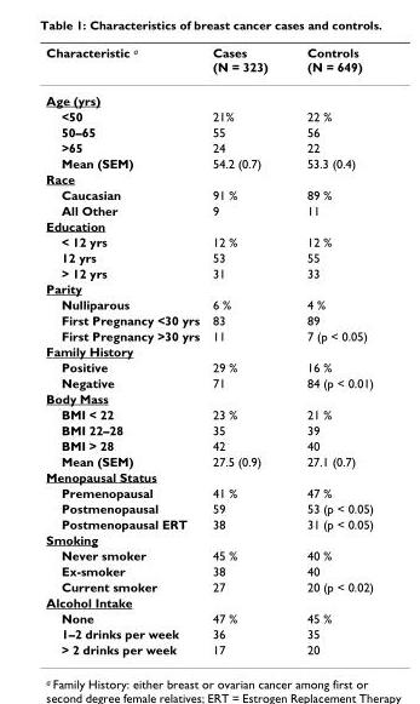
<table><thead><tr><td>Characteristic a</td><td>Cases (N = 323)</td><td>Controls (N = 649)</td></tr></thead><tbody><tr><td colspan="3">Age (yrs)</td></tr><tr><td>&lt;50</td><td>21%</td><td>22 %</td></tr><tr><td>50–65</td><td>55</td><td>56</td></tr><tr><td>&gt;65</td><td>24</td><td>22</td></tr><tr><td>Mean (SEM)</td><td>54.2 (0.7)</td><td>53.3 (0.4)</td></tr><tr><td colspan="3">Race</td></tr><tr><td>Caucasian</td><td>91 %</td><td>89 %</td></tr><tr><td>All Other</td><td>9</td><td>11</td></tr><tr><td colspan="3">Education</td></tr><tr><td>&lt; 12 yrs</td><td>12 %</td><td>12 %</td></tr><tr><td>12 yrs</td><td>53</td><td>55</td></tr><tr><td>&gt; 12 yrs</td><td>31</td><td>33</td></tr><tr><td colspan="3">Parity</td></tr><tr><td>Nulliparous</td><td>6 %</td><td>4 %</td></tr><tr><td>First Pregnancy &lt;30 yrs</td><td>83</td><td>89</td></tr><tr><td>First Pregnancy &gt;30 yrs</td><td>11</td><td>7 (p &lt; 0.05)</td></tr><tr><td colspan="3">Family History</td></tr><tr><td>Positive</td><td>29 %</td><td>16 %</td></tr><tr><td>Negative</td><td>71</td><td>84 (p &lt; 0.01)</td></tr><tr><td colspan="3">Body Mass</td></tr><tr><td>BMI &lt; 22</td><td>23 %</td><td>21 %</td></tr><tr><td>BMI 22–28</td><td>35</td><td>39</td></tr><tr><td>BMI &gt; 28</td><td>42</td><td>40</td></tr><tr><td>Mean (SEM)</td><td>27.5 (0.9)</td><td>27.1 (0.7)</td></tr><tr><td colspan="3">Menopausal Status</td></tr><tr><td>Premenopausal</td><td>41 %</td><td>47 %</td></tr><tr><td>Postmenopausal</td><td>59</td><td>53 (p &lt; 0.05)</td></tr><tr><td>Postmenopausal ERT</td><td>38</td><td>31 (p &lt; 0.05)</td></tr><tr><td colspan="3">Smoking</td></tr><tr><td>Never smoker</td><td>45 %</td><td>40 %</td></tr><tr><td>Ex-smoker</td><td>38</td><td>40</td></tr><tr><td>Current smoker</td><td>27</td><td>20 (p &lt; 0.02)</td></tr><tr><td colspan="3">Alcohol Intake</td></tr><tr><td>None</td><td>47 %</td><td>45 %</td></tr><tr><td>1–2 drinks per week</td><td>36</td><td>35</td></tr><tr><td>&gt; 2 drinks per week</td><td>17</td><td>20</td></tr></tbody></table>